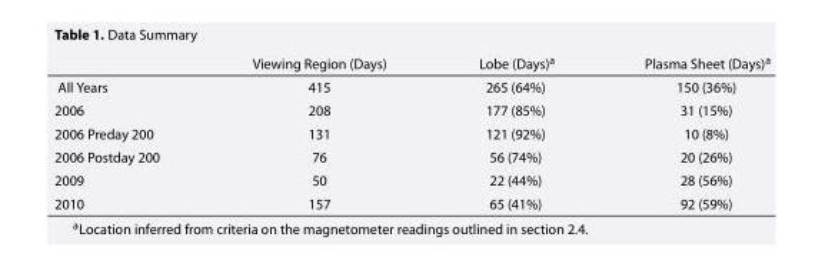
<table><thead><tr><td></td><td>Viewing Region (Days)</td><td>Lobe (Days)<sup>a</sup></td><td>Plasma Sheet (Days)<sup>a</sup></td></tr></thead><tbody><tr><td>All Years</td><td>415</td><td>265 (64%)</td><td>150 (36%)</td></tr><tr><td>2006</td><td>208</td><td>177 (85%)</td><td>31 (15%)</td></tr><tr><td>2006 Preday 200</td><td>131</td><td>121 (92%)</td><td>10 (8%)</td></tr><tr><td>2006 Postday 200</td><td>76</td><td>56 (74%)</td><td>20 (26%)</td></tr><tr><td>2009</td><td>50</td><td>22 (44%)</td><td>28 (56%)</td></tr><tr><td>2010</td><td>157</td><td>65 (41%)</td><td>92 (59%)</td></tr></tbody></table>